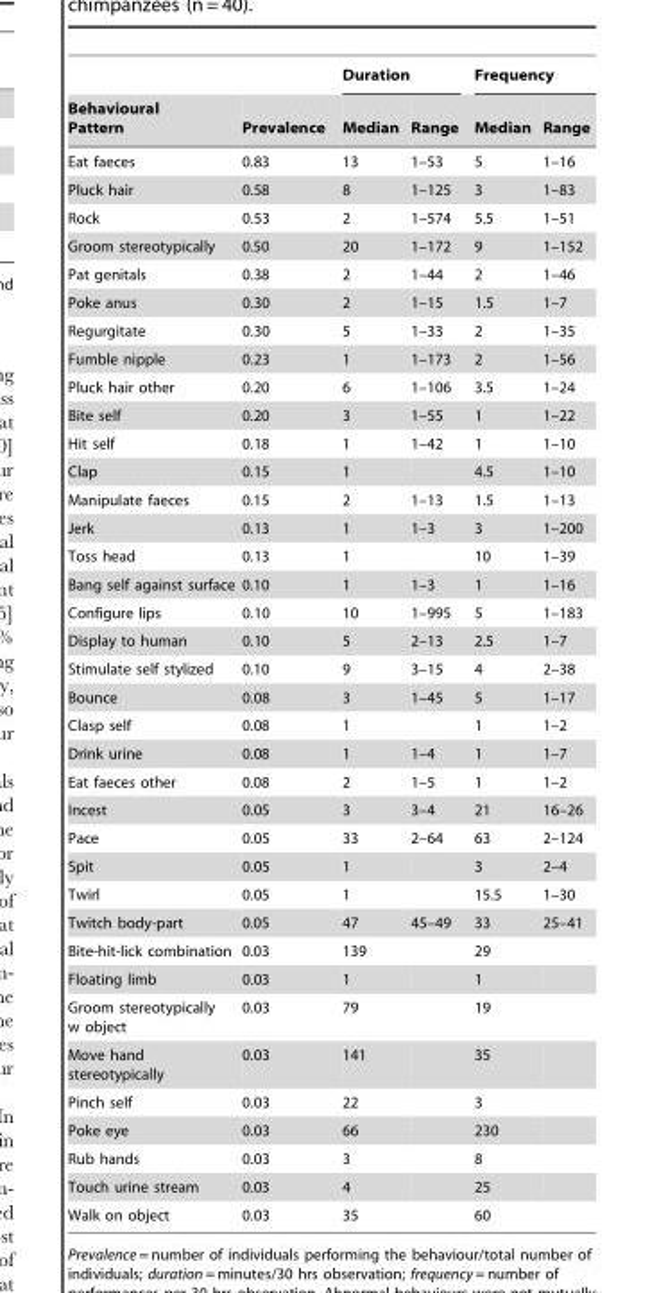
<table><thead><tr><td rowspan="2">Behavioural Pattern</td><td rowspan="2">Prevalence</td><td colspan="2">Duration</td><td colspan="2">Frequency</td></tr><tr><td>Median</td><td>Range</td><td>Median</td><td>Range</td></tr></thead><tbody><tr><td>Eat faeces</td><td>0.83</td><td>13</td><td>1–53</td><td>5</td><td>1–16</td></tr><tr><td>Pluck hair</td><td>0.58</td><td>8</td><td>1–125</td><td>3</td><td>1–83</td></tr><tr><td>Rock</td><td>0.53</td><td>2</td><td>1–574</td><td>5.5</td><td>1–51</td></tr><tr><td>Groom stereotypically</td><td>0.50</td><td>20</td><td>1–172</td><td>9</td><td>1–152</td></tr><tr><td>Pat genitals</td><td>0.38</td><td>2</td><td>1–44</td><td>2</td><td>1–46</td></tr><tr><td>Poke anus</td><td>0.30</td><td>2</td><td>1–15</td><td>1.5</td><td>1–7</td></tr><tr><td>Regurgitate</td><td>0.30</td><td>5</td><td>1–33</td><td>2</td><td>1–35</td></tr><tr><td>Fumble nipple</td><td>0.23</td><td>1</td><td>1–173</td><td>2</td><td>1–56</td></tr><tr><td>Pluck hair other</td><td>0.20</td><td>6</td><td>1–106</td><td>3.5</td><td>1–24</td></tr><tr><td>Bite self</td><td>0.20</td><td>3</td><td>1–55</td><td>1</td><td>1–22</td></tr><tr><td>Hit self</td><td>0.18</td><td>1</td><td>1–42</td><td>1</td><td>1–10</td></tr><tr><td>Clap</td><td>0.15</td><td>1</td><td></td><td>4.5</td><td>1–10</td></tr><tr><td>Manipulate faeces</td><td>0.15</td><td>2</td><td>1–13</td><td>1.5</td><td>1–13</td></tr><tr><td>Jerk</td><td>0.13</td><td>1</td><td>1–3</td><td>3</td><td>1–200</td></tr><tr><td>Toss head</td><td>0.13</td><td>1</td><td></td><td>10</td><td>1–39</td></tr><tr><td>Bang self against surface</td><td>0.10</td><td>1</td><td>1–3</td><td>1</td><td>1–16</td></tr><tr><td>Configure lips</td><td>0.10</td><td>10</td><td>1–995</td><td>5</td><td>1–183</td></tr><tr><td>Display to human</td><td>0.10</td><td>5</td><td>2–13</td><td>2.5</td><td>1–7</td></tr><tr><td>Stimulate self stylized</td><td>0.10</td><td>9</td><td>3–15</td><td>4</td><td>2–38</td></tr><tr><td>Bounce</td><td>0.08</td><td>3</td><td>1–45</td><td>5</td><td>1–17</td></tr><tr><td>Clasp self</td><td>0.08</td><td>1</td><td></td><td>1</td><td>1–2</td></tr><tr><td>Drink urine</td><td>0.08</td><td>1</td><td>1–4</td><td>1</td><td>1–7</td></tr><tr><td>Eat faeces other</td><td>0.08</td><td>2</td><td>1–5</td><td>1</td><td>1–2</td></tr><tr><td>Incest</td><td>0.05</td><td>3</td><td>3–4</td><td>21</td><td>16–26</td></tr><tr><td>Pace</td><td>0.05</td><td>33</td><td>2–64</td><td>63</td><td>2–124</td></tr><tr><td>Spit</td><td>0.05</td><td>1</td><td></td><td>3</td><td>2–4</td></tr><tr><td>Twirl</td><td>0.05</td><td>1</td><td></td><td>15.5</td><td>1–30</td></tr><tr><td>Twitch body-part</td><td>0.05</td><td>47</td><td>45–49</td><td>33</td><td>25–41</td></tr><tr><td>Bite-hit-lick combination</td><td>0.03</td><td>139</td><td></td><td>29</td><td></td></tr><tr><td>Floating limb</td><td>0.03</td><td>1</td><td></td><td>1</td><td></td></tr><tr><td>Groom stereotypically w object</td><td>0.03</td><td>79</td><td></td><td>19</td><td></td></tr><tr><td>Move hand stereotypically</td><td>0.03</td><td>141</td><td></td><td>35</td><td></td></tr><tr><td>Pinch self</td><td>0.03</td><td>22</td><td></td><td>3</td><td></td></tr><tr><td>Poke eye</td><td>0.03</td><td>66</td><td></td><td>230</td><td></td></tr><tr><td>Rub hands</td><td>0.03</td><td>3</td><td></td><td>8</td><td></td></tr><tr><td>Touch urine stream</td><td>0.03</td><td>4</td><td></td><td>25</td><td></td></tr><tr><td>Walk on object</td><td>0.03</td><td>35</td><td></td><td>60</td><td></td></tr></tbody></table>